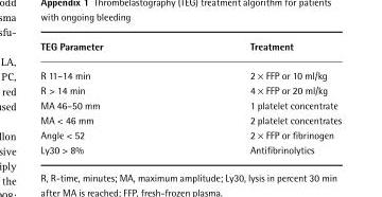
<table><thead><tr><td>TEG Parameter</td><td>Treatment</td></tr></thead><tbody><tr><td>R 11–14 min</td><td>2 × FFP or 10 ml/kg</td></tr><tr><td>R &gt; 14 min</td><td>4 × FFP or 20 ml/kg</td></tr><tr><td>MA 46–50 mm</td><td>1 platelet concentrate</td></tr><tr><td>MA &lt; 46 mm</td><td>2 platelet concentrates</td></tr><tr><td>Angle &lt; 52</td><td>2 × FFP or fibrinogen</td></tr><tr><td>Ly30 &gt; 8%</td><td>Antifibrinolytics</td></tr></tbody></table>